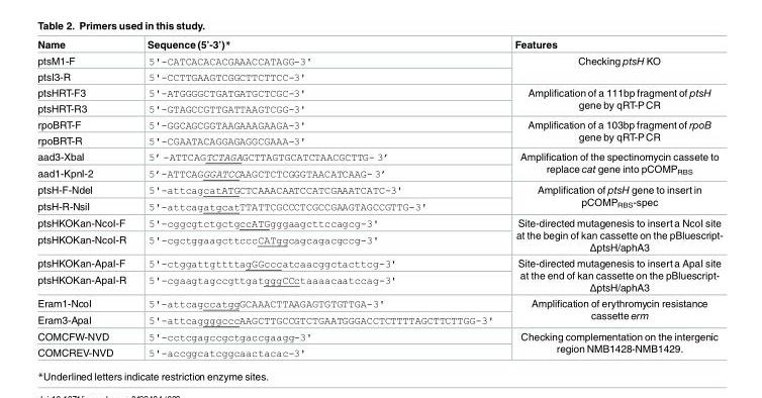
<table><thead><tr><td>Name</td><td>Sequence (5’-3’)*</td><td>Features</td></tr></thead><tbody><tr><td>ptsM1-F</td><td>5&#x27;-CATCACACACGAAACCATAGG-3&#x27;</td><td rowspan="2">Checking ptsH KO</td></tr><tr><td>ptsI3-R</td><td>5&#x27;-CCTTGAAGTCGGCTTCTTCC-3&#x27;</td></tr><tr><td>ptsHRT-F3</td><td>5&#x27;-ATGGGGCTGATGATGCTCGC-3&#x27;</td><td rowspan="2">Amplification of a 111bp fragment of ptsH gene by qRT-PCR</td></tr><tr><td>ptsHRT-R3</td><td>5&#x27;-GTAGCCGTTGATTAAGTCGG-3&#x27;</td></tr><tr><td>rpoBRT-F</td><td>5&#x27;-GGCAGCGGTAAGAAAGAAGA-3&#x27;</td><td rowspan="2">Amplification of a 103bp fragment of rpoB gene by qRT-PCR</td></tr><tr><td>rpoBRT-R</td><td>5&#x27;-CGAATACAGGAGAGGCGAAA-3&#x27;</td></tr><tr><td>aad3-XbaI</td><td>5’ -ATTCAGTCTAGAGCTTAGTGCATCTAACGCTTG- 3’</td><td rowspan="2">Amplification of the spectinomycin cassete to replace cat gene into pCOMP<sub>RBS</sub></td></tr><tr><td>aad1-KpnI-2</td><td>5’-ATTCAGGGATCCAAGCTCTCGGGTAACATCAAG- 3’</td></tr><tr><td>ptsH-F-NdeI</td><td>5&#x27;-attcagcatATGCTCAAACAATCCATCGAAATCATC-3&#x27;</td><td rowspan="2">Amplification of ptsH gene to insert in pCOMP<sub>RBS</sub>-spec</td></tr><tr><td>ptsH-R-NsiI</td><td>5&#x27;-attcagatgcatTTATTCGCCCTCGCCGAAGTAGCCGTTG-3&#x27;</td></tr><tr><td>ptsHKOKan-NcoI-F</td><td>5&#x27;-cggcgtctgctgccATGgggaagcttccagcg-3&#x27;</td><td rowspan="2">Site-directed mutagenesis to insert a NcoI site at the begin of kan cassette on the pBluescript- ΔptsH/aphA3</td></tr><tr><td>ptsHKOKan-NcoI-R</td><td>5&#x27;-cgctggaagcttcccCATggcagcagacgccg-3&#x27;</td></tr><tr><td>ptsHKOKan-ApaI-F</td><td>5&#x27;-ctggattgttttagGGcccatcaacggctacttcg-3&#x27;</td><td rowspan="2">Site-directed mutagenesis to insert a ApaI site at the end of kan cassette on the pBluescript- ΔptsH/aphA3</td></tr><tr><td>ptsHKOKan-ApaI-R</td><td>5&#x27;-cgaagtagccgttgatgggCCctaaaacaatccag-3&#x27;</td></tr><tr><td>Eram1-NcoI</td><td>5&#x27;-attcagccatggGCAAACTTAAGAGTGTGTTGA-3&#x27;</td><td rowspan="2">Amplification of erythromycin resistance cassette erm</td></tr><tr><td>Eram3-ApaI</td><td>5&#x27;-attcaggggcccAAGCTTGCCGTCTGAATGGGACCTCTTTTAGCTTCTTGG-3&#x27;</td></tr><tr><td>COMCFW-NVD</td><td>5&#x27;-cctcgagccgctgaccgaagg-3&#x27;</td><td rowspan="2">Checking complementation on the intergenic region NMB1428-NMB1429.</td></tr><tr><td>COMCREV-NVD</td><td>5&#x27;-accggcatcggcaactacac-3&#x27;</td></tr></tbody></table>